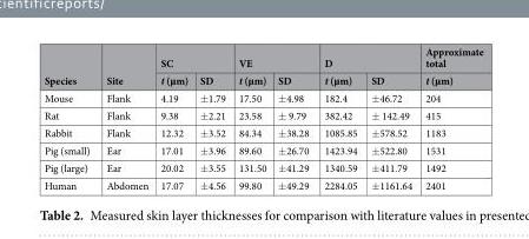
<table><thead><tr><td rowspan="2">Species</td><td rowspan="2">Site</td><td colspan="2">SC</td><td colspan="2">VE</td><td colspan="2">D</td><td rowspan="2">Approximate total t (µm)</td></tr><tr><td>t (µm)</td><td>SD</td><td>t (µm)</td><td>SD</td><td>t (µm)</td><td>SD</td></tr></thead><tbody><tr><td>Mouse</td><td>Flank</td><td>4.19</td><td>±1.79</td><td>17.50</td><td>±4.98</td><td>182.4</td><td>±46.72</td><td>204</td></tr><tr><td>Rat</td><td>Flank</td><td>9.38</td><td>±2.21</td><td>23.58</td><td>± 9.79</td><td>382.42</td><td>± 142.49</td><td>415</td></tr><tr><td>Rabbit</td><td>Flank</td><td>12.32</td><td>±3.52</td><td>84.34</td><td>±38.28</td><td>1085.85</td><td>±578.52</td><td>1183</td></tr><tr><td>Pig (small)</td><td>Ear</td><td>17.01</td><td>±3.96</td><td>89.60</td><td>±26.70</td><td>1423.94</td><td>±522.80</td><td>1531</td></tr><tr><td>Pig (large)</td><td>Ear</td><td>20.02</td><td>±3.55</td><td>131.50</td><td>±41.29</td><td>1340.59</td><td>±411.79</td><td>1492</td></tr><tr><td>Human</td><td>Abdomen</td><td>17.07</td><td>±4.56</td><td>99.80</td><td>±49.29</td><td>2284.05</td><td>±1161.64</td><td>2401</td></tr></tbody></table>